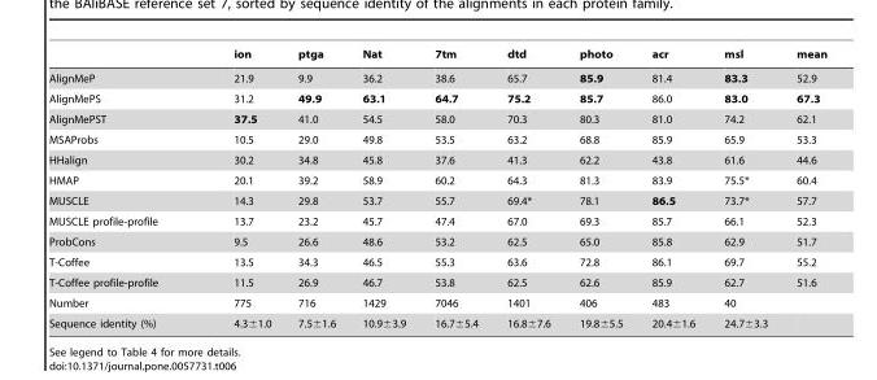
<table><thead><tr><td></td><td>ion</td><td>ptga</td><td>Nat</td><td>7tm</td><td>dtd</td><td>photo</td><td>acr</td><td>msl</td><td>mean</td></tr></thead><tbody><tr><td>AlignMeP</td><td>21.9</td><td>9.9</td><td>36.2</td><td>38.6</td><td>65.7</td><td>85.9</td><td>81.4</td><td>83.3</td><td>52.9</td></tr><tr><td>AlignMePS</td><td>31.2</td><td>49.9</td><td>63.1</td><td>64.7</td><td>75.2</td><td>85.7</td><td>86.0</td><td>83.0</td><td>67.3</td></tr><tr><td>AlignMePST</td><td>37.5</td><td>41.0</td><td>54.5</td><td>58.0</td><td>70.3</td><td>80.3</td><td>81.0</td><td>74.2</td><td>62.1</td></tr><tr><td>MSAProbs</td><td>10.5</td><td>29.0</td><td>49.8</td><td>53.5</td><td>63.2</td><td>68.8</td><td>85.9</td><td>65.9</td><td>53.3</td></tr><tr><td>HHalign</td><td>30.2</td><td>34.8</td><td>45.8</td><td>37.6</td><td>41.3</td><td>62.2</td><td>43.8</td><td>61.6</td><td>44.6</td></tr><tr><td>HMAP</td><td>20.1</td><td>39.2</td><td>58.9</td><td>60.2</td><td>64.3</td><td>81.3</td><td>83.9</td><td>75.5*</td><td>60.4</td></tr><tr><td>MUSCLE</td><td>14.3</td><td>29.8</td><td>53.7</td><td>55.7</td><td>69.4*</td><td>78.1</td><td>86.5</td><td>73.7*</td><td>57.7</td></tr><tr><td>MUSCLE profile-profile</td><td>13.7</td><td>23.2</td><td>45.7</td><td>47.4</td><td>67.0</td><td>69.3</td><td>85.7</td><td>66.1</td><td>52.3</td></tr><tr><td>ProbCons</td><td>9.5</td><td>26.6</td><td>48.6</td><td>53.2</td><td>62.5</td><td>65.0</td><td>85.8</td><td>62.9</td><td>51.7</td></tr><tr><td>T-Coffee</td><td>13.5</td><td>34.3</td><td>46.5</td><td>55.3</td><td>63.6</td><td>72.8</td><td>86.1</td><td>69.7</td><td>55.2</td></tr><tr><td>T-Coffee profile-profile</td><td>11.5</td><td>26.9</td><td>46.7</td><td>53.8</td><td>62.5</td><td>62.6</td><td>85.9</td><td>62.7</td><td>51.6</td></tr><tr><td>Number</td><td>775</td><td>716</td><td>1429</td><td>7046</td><td>1401</td><td>406</td><td>483</td><td>40</td><td></td></tr><tr><td>Sequence identity (%)</td><td>4.3±1.0</td><td>7.5±1.6</td><td>10.9±3.9</td><td>16.7±5.4</td><td>16.8±7.6</td><td>19.8±5.5</td><td>20.4±1.6</td><td>24.7±3.3</td><td></td></tr></tbody></table>